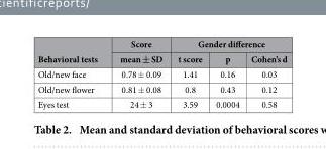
<table><thead><tr><td rowspan="2">Behavioral tests</td><td rowspan="2">Score mean ± SD</td><td colspan="3">Gender difference</td></tr><tr><td>t score</td><td>p</td><td>Cohen’s d</td></tr></thead><tbody><tr><td>Old/new face</td><td>0.78 ± 0.09</td><td>1.41</td><td>0.16</td><td>0.03</td></tr><tr><td>Old/new flower</td><td>0.81 ± 0.08</td><td>0.8</td><td>0.43</td><td>0.12</td></tr><tr><td>Eyes test</td><td>24 ± 3</td><td>3.59</td><td>0.0004</td><td>0.58</td></tr></tbody></table>